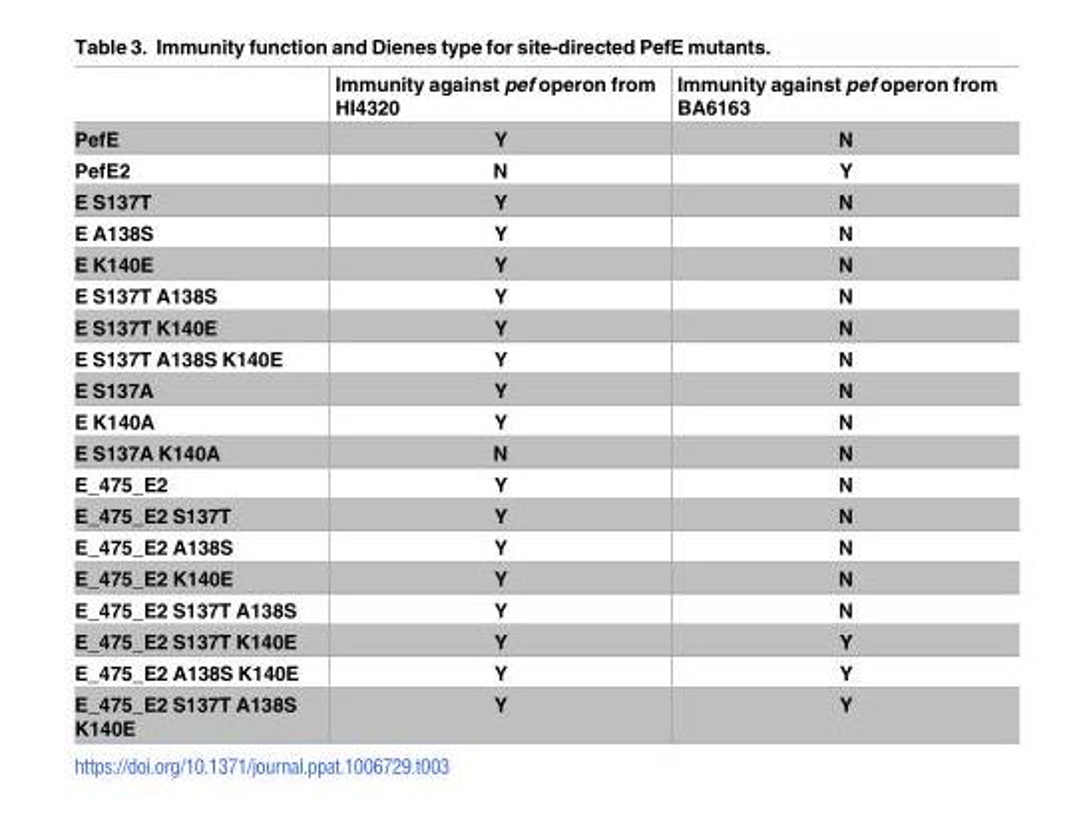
<table><thead><tr><td></td><td>Immunity against pef operon from HI4320</td><td>Immunity against pef operon from BA6163</td></tr></thead><tbody><tr><td>PefE</td><td>Y</td><td>N</td></tr><tr><td>PefE2</td><td>N</td><td>Y</td></tr><tr><td>E S137T</td><td>Y</td><td>N</td></tr><tr><td>E A138S</td><td>Y</td><td>N</td></tr><tr><td>E K140E</td><td>Y</td><td>N</td></tr><tr><td>E S137T A138S</td><td>Y</td><td>N</td></tr><tr><td>E S137T K140E</td><td>Y</td><td>N</td></tr><tr><td>E S137T A138S K140E</td><td>Y</td><td>N</td></tr><tr><td>E S137A</td><td>Y</td><td>N</td></tr><tr><td>E K140A</td><td>Y</td><td>N</td></tr><tr><td>E S137A K140A</td><td>N</td><td>N</td></tr><tr><td>E_475_E2</td><td>Y</td><td>N</td></tr><tr><td>E_475_E2 S137T</td><td>Y</td><td>N</td></tr><tr><td>E_475_E2 A138S</td><td>Y</td><td>N</td></tr><tr><td>E_475_E2 K140E</td><td>Y</td><td>N</td></tr><tr><td>E_475_E2 S137T A138S</td><td>Y</td><td>N</td></tr><tr><td>E_475_E2 S137T K140E</td><td>Y</td><td>Y</td></tr><tr><td>E_475_E2 A138S K140E</td><td>Y</td><td>Y</td></tr><tr><td>E_475_E2 S137T A138S K140E</td><td>Y</td><td>Y</td></tr></tbody></table>